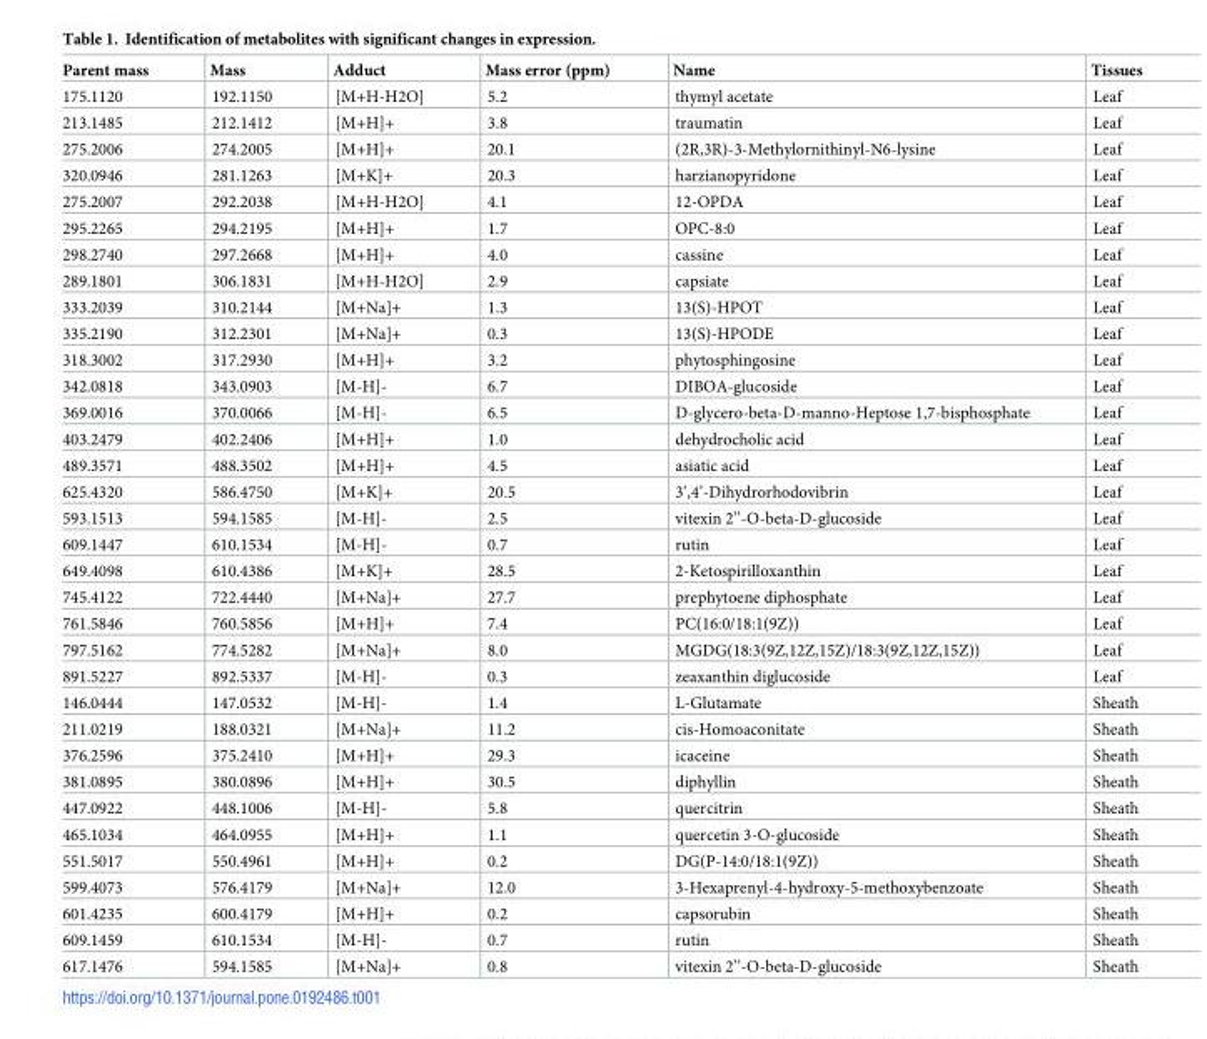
<table><thead><tr><td>Parent mass</td><td>Mass</td><td>Adduct</td><td>Mass error (ppm)</td><td>Name</td><td>Tissues</td></tr></thead><tbody><tr><td>175.1120</td><td>192.1150</td><td>[M+H-H2O]</td><td>5.2</td><td>thymyl acetate</td><td>Leaf</td></tr><tr><td>213.1485</td><td>212.1412</td><td>[M+H]+</td><td>3.8</td><td>traumatin</td><td>Leaf</td></tr><tr><td>275.2006</td><td>274.2005</td><td>[M+H]+</td><td>20.1</td><td>(2R,3R)-3-Methylornithinyl-N6-lysine</td><td>Leaf</td></tr><tr><td>320.0946</td><td>281.1263</td><td>[M+K]+</td><td>20.3</td><td>harzianopyridone</td><td>Leaf</td></tr><tr><td>275.2007</td><td>292.2038</td><td>[M+H-H2O]</td><td>4.1</td><td>12-OPDA</td><td>Leaf</td></tr><tr><td>295.2265</td><td>294.2195</td><td>[M+H]+</td><td>1.7</td><td>OPC-8:0</td><td>Leaf</td></tr><tr><td>298.2740</td><td>297.2668</td><td>[M+H]+</td><td>4.0</td><td>cassine</td><td>Leaf</td></tr><tr><td>289.1801</td><td>306.1831</td><td>[M+H-H2O]</td><td>2.9</td><td>capsiate</td><td>Leaf</td></tr><tr><td>333.2039</td><td>310.2144</td><td>[M+Na]+</td><td>1.3</td><td>13(S)-HPOT</td><td>Leaf</td></tr><tr><td>335.2190</td><td>312.2301</td><td>[M+Na]+</td><td>0.3</td><td>13(S)-HPODE</td><td>Leaf</td></tr><tr><td>318.3002</td><td>317.2930</td><td>[M+H]+</td><td>3.2</td><td>phytosphingosine</td><td>Leaf</td></tr><tr><td>342.0818</td><td>343.0903</td><td>[M-H]-</td><td>6.7</td><td>DIBOA-glucoside</td><td>Leaf</td></tr><tr><td>369.0016</td><td>370.0066</td><td>[M-H]-</td><td>6.5</td><td>D-glycero-beta-D-manno-Heptose 1,7-bisphosphate</td><td>Leaf</td></tr><tr><td>403.2479</td><td>402.2406</td><td>[M+H]+</td><td>1.0</td><td>dehydrocholic acid</td><td>Leaf</td></tr><tr><td>489.3571</td><td>488.3502</td><td>[M+H]+</td><td>4.5</td><td>asiatic acid</td><td>Leaf</td></tr><tr><td>625.4320</td><td>586.4750</td><td>[M+K]+</td><td>20.5</td><td>3’,4’-Dihydrorhodovibrin</td><td>Leaf</td></tr><tr><td>593.1513</td><td>594.1585</td><td>[M-H]-</td><td>2.5</td><td>vitexin 2’’-O-beta-D-glucoside</td><td>Leaf</td></tr><tr><td>609.1447</td><td>610.1534</td><td>[M-H]-</td><td>0.7</td><td>rutin</td><td>Leaf</td></tr><tr><td>649.4098</td><td>610.4386</td><td>[M+K]+</td><td>28.5</td><td>2-Ketospirilloxanthin</td><td>Leaf</td></tr><tr><td>745.4122</td><td>722.4440</td><td>[M+Na]+</td><td>27.7</td><td>prephytoene diphosphate</td><td>Leaf</td></tr><tr><td>761.5846</td><td>760.5856</td><td>[M+H]+</td><td>7.4</td><td>PC(16:0/18:1(9Z))</td><td>Leaf</td></tr><tr><td>797.5162</td><td>774.5282</td><td>[M+Na]+</td><td>8.0</td><td>MGDG(18:3(9Z,12Z,15Z)/18:3(9Z,12Z,15Z))</td><td>Leaf</td></tr><tr><td>891.5227</td><td>892.5337</td><td>[M-H]-</td><td>0.3</td><td>zeaxanthin diglucoside</td><td>Leaf</td></tr><tr><td>146.0444</td><td>147.0532</td><td>[M-H]-</td><td>1.4</td><td>L-Glutamate</td><td>Sheath</td></tr><tr><td>211.0219</td><td>188.0321</td><td>[M+Na]+</td><td>11.2</td><td>cis-Homoaconitate</td><td>Sheath</td></tr><tr><td>376.2596</td><td>375.2410</td><td>[M+H]+</td><td>29.3</td><td>icaceine</td><td>Sheath</td></tr><tr><td>381.0895</td><td>380.0896</td><td>[M+H]+</td><td>30.5</td><td>diphyllin</td><td>Sheath</td></tr><tr><td>447.0922</td><td>448.1006</td><td>[M-H]-</td><td>5.8</td><td>quercitrin</td><td>Sheath</td></tr><tr><td>465.1034</td><td>464.0955</td><td>[M+H]+</td><td>1.1</td><td>quercetin 3-O-glucoside</td><td>Sheath</td></tr><tr><td>551.5017</td><td>550.4961</td><td>[M+H]+</td><td>0.2</td><td>DG(P-14:0/18:1(9Z))</td><td>Sheath</td></tr><tr><td>599.4073</td><td>576.4179</td><td>[M+Na]+</td><td>12.0</td><td>3-Hexaprenyl-4-hydroxy-5-methoxybenzoate</td><td>Sheath</td></tr><tr><td>601.4235</td><td>600.4179</td><td>[M+H]+</td><td>0.2</td><td>capsorubin</td><td>Sheath</td></tr><tr><td>609.1459</td><td>610.1534</td><td>[M-H]-</td><td>0.7</td><td>rutin</td><td>Sheath</td></tr><tr><td>617.1476</td><td>594.1585</td><td>[M+Na]+</td><td>0.8</td><td>vitexin 2’’-O-beta-D-glucoside</td><td>Sheath</td></tr></tbody></table>